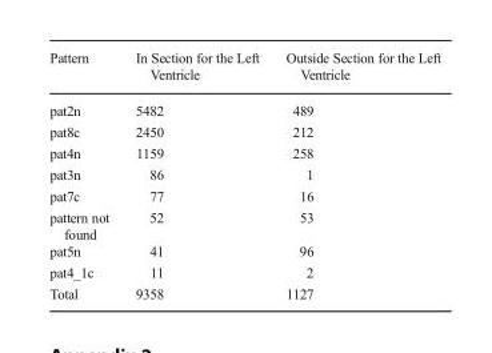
<table><thead><tr><td>Pattern</td><td>In Section for the Left Ventricle</td><td>Outside Section for the Left Ventricle</td></tr></thead><tbody><tr><td>pat2n</td><td>5482</td><td>489</td></tr><tr><td>pat8c</td><td>2450</td><td>212</td></tr><tr><td>pat4n</td><td>1159</td><td>258</td></tr><tr><td>pat3n</td><td>86</td><td>1</td></tr><tr><td>pat7c</td><td>77</td><td>16</td></tr><tr><td>pattern not found</td><td>52</td><td>53</td></tr><tr><td>pat5n</td><td>41</td><td>96</td></tr><tr><td>pat4_1c</td><td>11</td><td>2</td></tr><tr><td>Total</td><td>9358</td><td>1127</td></tr></tbody></table>